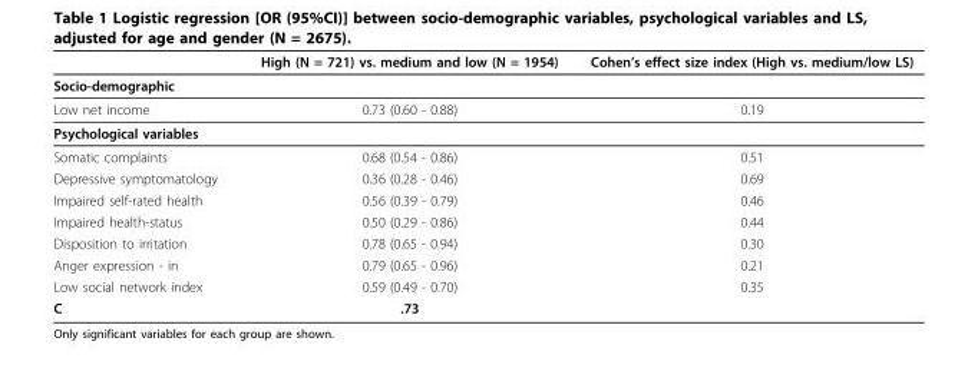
<table><thead><tr><td></td><td>High (N = 721) vs. medium and low (N = 1954)</td><td>Cohen’s effect size index (High vs. medium/low LS)</td></tr></thead><tbody><tr><td colspan="3">Socio-demographic</td></tr><tr><td>Low net income</td><td>0.73 (0.60 - 0.88)</td><td>0.19</td></tr><tr><td colspan="3">Psychological variables</td></tr><tr><td>Somatic complaints</td><td>0.68 (0.54 - 0.86)</td><td>0.51</td></tr><tr><td>Depressive symptomatology</td><td>0.36 (0.28 - 0.46)</td><td>0.69</td></tr><tr><td>Impaired self-rated health</td><td>0.56 (0.39 - 0.79)</td><td>0.46</td></tr><tr><td>Impaired health-status</td><td>0.50 (0.29 - 0.86)</td><td>0.44</td></tr><tr><td>Disposition to irritation</td><td>0.78 (0.65 - 0.94)</td><td>0.30</td></tr><tr><td>Anger expression - in</td><td>0.79 (0.65 - 0.96)</td><td>0.21</td></tr><tr><td>Low social network index</td><td>0.59 (0.49 - 0.70)</td><td>0.35</td></tr><tr><td>C</td><td>.73</td><td></td></tr></tbody></table>